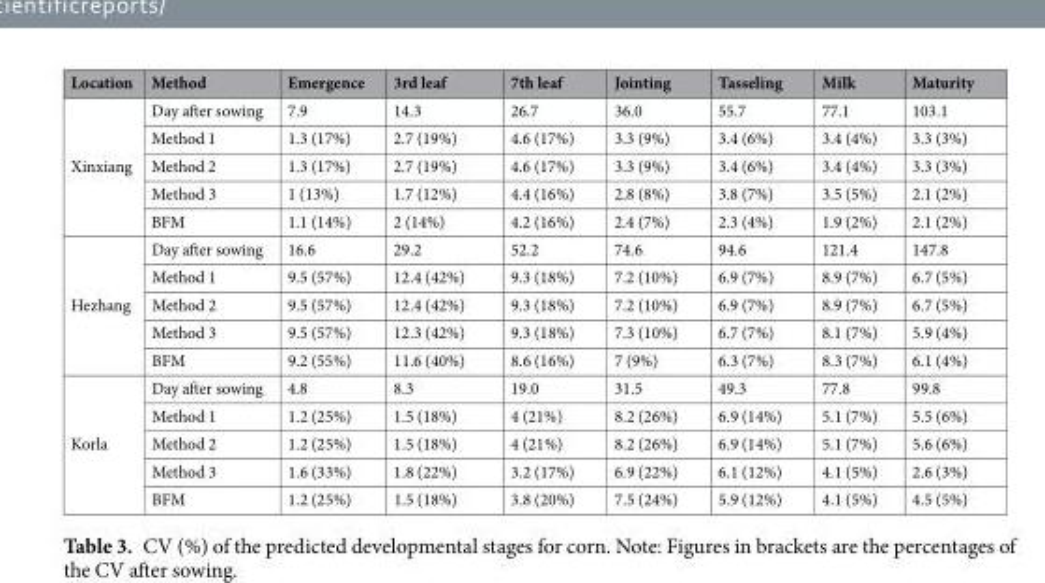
<table><thead><tr><td>Location</td><td>Method</td><td>Emergence</td><td>3rd leaf</td><td>7th leaf</td><td>Jointing</td><td>Tasseling</td><td>Milk</td><td>Maturity</td></tr></thead><tbody><tr><td rowspan="5">Xinxiang</td><td>Day after sowing</td><td>7.9</td><td>14.3</td><td>26.7</td><td>36.0</td><td>55.7</td><td>77.1</td><td>103.1</td></tr><tr><td>Method 1</td><td>1.3 (17%)</td><td>2.7 (19%)</td><td>4.6 (17%)</td><td>3.3 (9%)</td><td>3.4 (6%)</td><td>3.4 (4%)</td><td>3.3 (3%)</td></tr><tr><td>Method 2</td><td>1.3 (17%)</td><td>2.7 (19%)</td><td>4.6 (17%)</td><td>3.3 (9%)</td><td>3.4 (6%)</td><td>3.4 (4%)</td><td>3.3 (3%)</td></tr><tr><td>Method 3</td><td>1 (13%)</td><td>1.7 (12%)</td><td>4.4 (16%)</td><td>2.8 (8%)</td><td>3.8 (7%)</td><td>3.5 (5%)</td><td>2.1 (2%)</td></tr><tr><td>BFM</td><td>1.1 (14%)</td><td>2 (14%)</td><td>4.2 (16%)</td><td>2.4 (7%)</td><td>2.3 (4%)</td><td>1.9 (2%)</td><td>2.1 (2%)</td></tr><tr><td rowspan="5">Hezhang</td><td>Day after sowing</td><td>16.6</td><td>29.2</td><td>52.2</td><td>74.6</td><td>94.6</td><td>121.4</td><td>147.8</td></tr><tr><td>Method 1</td><td>9.5 (57%)</td><td>12.4 (42%)</td><td>9.3 (18%)</td><td>7.2 (10%)</td><td>6.9 (7%)</td><td>8.9 (7%)</td><td>6.7 (5%)</td></tr><tr><td>Method 2</td><td>9.5 (57%)</td><td>12.4 (42%)</td><td>9.3 (18%)</td><td>7.2 (10%)</td><td>6.9 (7%)</td><td>8.9 (7%)</td><td>6.7 (5%)</td></tr><tr><td>Method 3</td><td>9.5 (57%)</td><td>12.3 (42%)</td><td>9.3 (18%)</td><td>7.3 (10%)</td><td>6.7 (7%)</td><td>8.1 (7%)</td><td>5.9 (4%)</td></tr><tr><td>BFM</td><td>9.2 (55%)</td><td>11.6 (40%)</td><td>8.6 (16%)</td><td>7 (9%)</td><td>6.3 (7%)</td><td>8.3 (7%)</td><td>6.1 (4%)</td></tr><tr><td rowspan="5">Korla</td><td>Day after sowing</td><td>4.8</td><td>8.3</td><td>19.0</td><td>31.5</td><td>49.3</td><td>77.8</td><td>99.8</td></tr><tr><td>Method 1</td><td>1.2 (25%)</td><td>1.5 (18%)</td><td>4 (21%)</td><td>8.2 (26%)</td><td>6.9 (14%)</td><td>5.1 (7%)</td><td>5.5 (6%)</td></tr><tr><td>Method 2</td><td>1.2 (25%)</td><td>1.5 (18%)</td><td>4 (21%)</td><td>8.2 (26%)</td><td>6.9 (14%)</td><td>5.1 (7%)</td><td>5.6 (6%)</td></tr><tr><td>Method 3</td><td>1.6 (33%)</td><td>1.8 (22%)</td><td>3.2 (17%)</td><td>6.9 (22%)</td><td>6.1 (12%)</td><td>4.1 (5%)</td><td>2.6 (3%)</td></tr><tr><td>BFM</td><td>1.2 (25%)</td><td>1.5 (18%)</td><td>3.8 (20%)</td><td>7.5 (24%)</td><td>5.9 (12%)</td><td>4.1 (5%)</td><td>4.5 (5%)</td></tr></tbody></table>